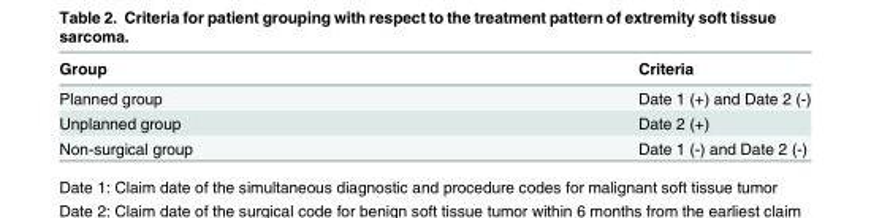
<table><thead><tr><td>Group</td><td>Criteria</td></tr></thead><tbody><tr><td>Planned group</td><td>Date 1 (+) and Date 2 (-)</td></tr><tr><td>Unplanned group</td><td>Date 2 (+)</td></tr><tr><td>Non-surgical group</td><td>Date 1 (-) and Date 2 (-)</td></tr></tbody></table>